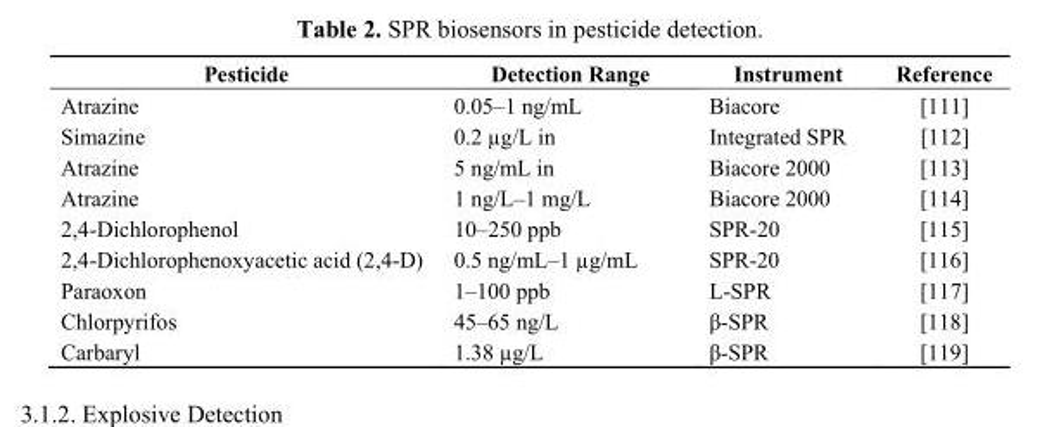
<table><thead><tr><td>Pesticide</td><td>Detection Range</td><td>Instrument</td><td>Reference</td></tr></thead><tbody><tr><td>Atrazine</td><td>0.05–1 ng/mL</td><td>Biacore</td><td>[111]</td></tr><tr><td>Simazine</td><td>0.2 µg/L in</td><td>Integrated SPR</td><td>[112]</td></tr><tr><td>Atrazine</td><td>5 ng/mL in</td><td>Biacore 2000</td><td>[113]</td></tr><tr><td>Atrazine</td><td>1 ng/L–1 mg/L</td><td>Biacore 2000</td><td>[114]</td></tr><tr><td>2,4-Dichlorophenol</td><td>10–250 ppb</td><td>SPR-20</td><td>[115]</td></tr><tr><td>2,4-Dichlorophenoxyacetic acid (2,4-D)</td><td>0.5 ng/mL–1 µg/mL</td><td>SPR-20</td><td>[116]</td></tr><tr><td>Paraoxon</td><td>1–100 ppb</td><td>L-SPR</td><td>[117]</td></tr><tr><td>Chlorpyrifos</td><td>45–65 ng/L</td><td>β-SPR</td><td>[118]</td></tr><tr><td>Carbaryl</td><td>1.38 µg/L</td><td>β-SPR</td><td>[119]</td></tr></tbody></table>